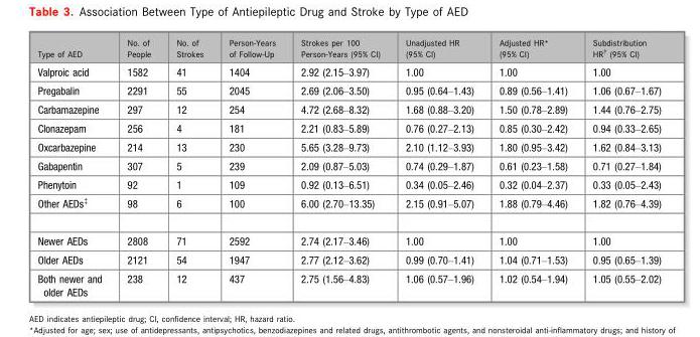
<table><thead><tr><td>Type of AED</td><td>No. of People</td><td>No. of Strokes</td><td>Person-Years of Follow-Up</td><td>Strokes per 100 Person-Years (95% CI)</td><td>Unadjusted HR (95% CI)</td><td>Adjusted HR* (95% CI)</td><td>Subdistribution HR† (95% CI)</td></tr></thead><tbody><tr><td>Valproic acid</td><td>1582</td><td>41</td><td>1404</td><td>2.92 (2.15–3.97)</td><td>1.00</td><td>1.00</td><td>1.00</td></tr><tr><td>Pregabalin</td><td>2291</td><td>55</td><td>2045</td><td>2.69 (2.06–3.50)</td><td>0.95 (0.64–1.43)</td><td>0.89 (0.56–1.41)</td><td>1.06 (0.67–1.67)</td></tr><tr><td>Carbamazepine</td><td>297</td><td>12</td><td>254</td><td>4.72 (2.68–8.32)</td><td>1.68 (0.88–3.20)</td><td>1.50 (0.78–2.89)</td><td>1.44 (0.76–2.75)</td></tr><tr><td>Clonazepam</td><td>256</td><td>4</td><td>181</td><td>2.21 (0.83–5.89)</td><td>0.76 (0.27–2.13)</td><td>0.85 (0.30–2.42)</td><td>0.94 (0.33–2.65)</td></tr><tr><td>Oxcarbazepine</td><td>214</td><td>13</td><td>230</td><td>5.65 (3.28–9.73)</td><td>2.10 (1.12–3.93)</td><td>1.80 (0.95–3.42)</td><td>1.62 (0.84–3.13)</td></tr><tr><td>Gabapentin</td><td>307</td><td>5</td><td>239</td><td>2.09 (0.87–5.03)</td><td>0.74 (0.29–1.87)</td><td>0.61 (0.23–1.58)</td><td>0.71 (0.27–1.84)</td></tr><tr><td>Phenytoin</td><td>92</td><td>1</td><td>109</td><td>0.92 (0.13–6.51)</td><td>0.34 (0.05–2.46)</td><td>0.32 (0.04–2.37)</td><td>0.33 (0.05–2.43)</td></tr><tr><td>Other AEDs‡</td><td>98</td><td>6</td><td>100</td><td>6.00 (2.70–13.35)</td><td>2.15 (0.91–5.07)</td><td>1.88 (0.79–4.46)</td><td>1.82 (0.76–4.39)</td></tr><tr><td>Newer AEDs</td><td>2808</td><td>71</td><td>2592</td><td>2.74 (2.17–3.46)</td><td>1.00</td><td>1.00</td><td>1.00</td></tr><tr><td>Older AEDs</td><td>2121</td><td>54</td><td>1947</td><td>2.77 (2.12–3.62)</td><td>0.99 (0.70–1.41)</td><td>1.04 (0.71–1.53)</td><td>0.95 (0.65–1.39)</td></tr><tr><td>Both newer and older AEDs</td><td>238</td><td>12</td><td>437</td><td>2.75 (1.56–4.83)</td><td>1.06 (0.57–1.96)</td><td>1.02 (0.54–1.94)</td><td>1.05 (0.55–2.02)</td></tr></tbody></table>